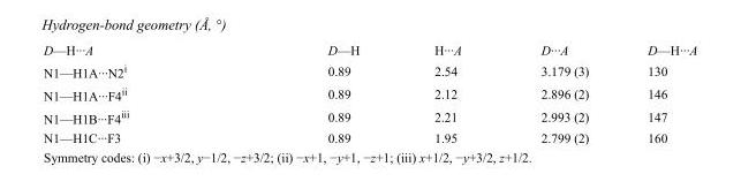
<table><tbody><tr><td>D—H···A</td><td>D—H</td><td>H···A</td><td>D···A</td><td>D—H···A</td></tr><tr><td>N1—H1A···N2<sup>i</sup></td><td>0.89</td><td>2.54</td><td>3.179 (3)</td><td>130</td></tr><tr><td>N1—H1A···F4<sup>ii</sup></td><td>0.89</td><td>2.12</td><td>2.896 (2)</td><td>146</td></tr><tr><td>N1—H1B···F4<sup>iii</sup></td><td>0.89</td><td>2.21</td><td>2.993 (2)</td><td>147</td></tr><tr><td>N1—H1C···F3</td><td>0.89</td><td>1.95</td><td>2.799 (2)</td><td>160</td></tr></tbody></table>